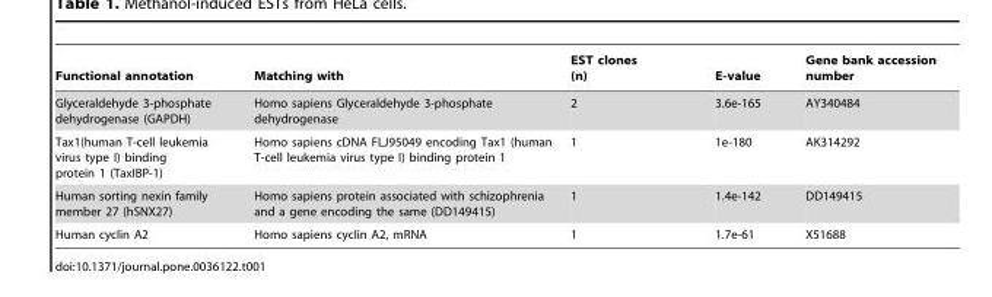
<table><thead><tr><td>Functional annotation</td><td>Matching with</td><td>EST clones (n)</td><td>E-value</td><td>Gene bank accession number</td></tr></thead><tbody><tr><td>Glyceraldehyde 3-phosphate dehydrogenase (GAPDH)</td><td>Homo sapiens Glyceraldehyde 3-phosphate dehydrogenase</td><td>2</td><td>3.6e-165</td><td>AY340484</td></tr><tr><td>Tax1(human T-cell leukemia virus type I) binding protein 1 (TaxIBP-1)</td><td>Homo sapiens cDNA FLJ95049 encoding Tax1 (human T-cell leukemia virus type I) binding protein 1</td><td>1</td><td>1e-180</td><td>AK314292</td></tr><tr><td>Human sorting nexin family member 27 (hSNX27)</td><td>Homo sapiens protein associated with schizophrenia and a gene encoding the same (DD149415)</td><td>1</td><td>1.4e-142</td><td>DD149415</td></tr><tr><td>Human cyclin A2</td><td>Homo sapiens cyclin A2, mRNA</td><td>1</td><td>1.7e-61</td><td>X51688</td></tr></tbody></table>